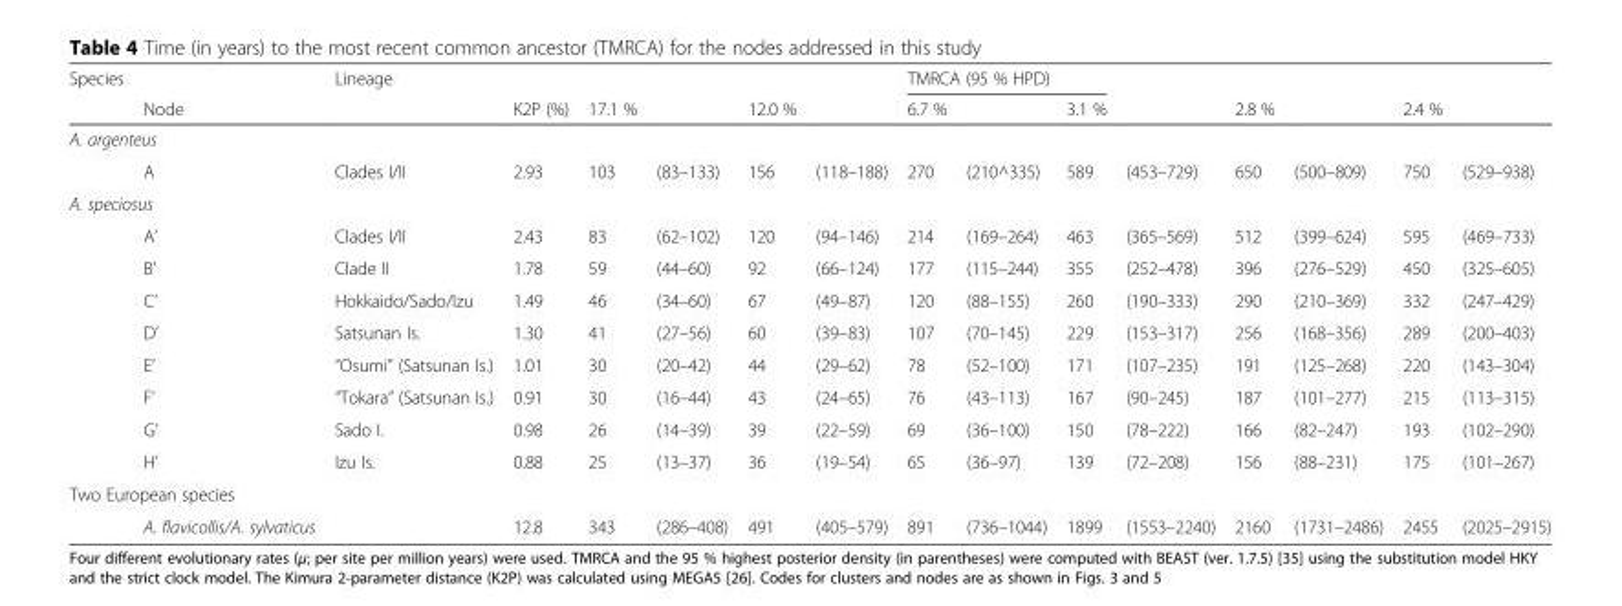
<table><thead><tr><td rowspan="2">Species</td><td rowspan="2">Node</td><td rowspan="2">Lineage</td><td rowspan="2">K2P (%)</td><td rowspan="2">17.1 %</td><td rowspan="2"></td><td rowspan="2">12.0 %</td><td rowspan="2"></td><td colspan="3">TMRCA (95 % HPD)</td><td rowspan="2"></td><td rowspan="2">2.8 %</td><td rowspan="2"></td><td rowspan="2">2.4 %</td><td rowspan="2"></td></tr><tr><td>6.7 %</td><td></td><td>3.1 %</td></tr></thead><tbody><tr><td colspan="16">A. argenteus</td></tr><tr><td></td><td>A</td><td>Clades I/II</td><td>2.93</td><td>103</td><td>(83–133)</td><td>156</td><td>(118–188)</td><td>270</td><td>(210^335)</td><td>589</td><td>(453–729)</td><td>650</td><td>(500–809)</td><td>750</td><td>(529–938)</td></tr><tr><td colspan="16">A. speciosus</td></tr><tr><td></td><td>A’</td><td>Clades I/II</td><td>2.43</td><td>83</td><td>(62–102)</td><td>120</td><td>(94–146)</td><td>214</td><td>(169–264)</td><td>463</td><td>(365–569)</td><td>512</td><td>(399–624)</td><td>595</td><td>(469–733)</td></tr><tr><td></td><td>B’</td><td>Clade II</td><td>1.78</td><td>59</td><td>(44–60)</td><td>92</td><td>(66–124)</td><td>177</td><td>(115–244)</td><td>355</td><td>(252–478)</td><td>396</td><td>(276–529)</td><td>450</td><td>(325–605)</td></tr><tr><td></td><td>C’</td><td>Hokkaido/Sado/Izu</td><td>1.49</td><td>46</td><td>(34–60)</td><td>67</td><td>(49–87)</td><td>120</td><td>(88–155)</td><td>260</td><td>(190–333)</td><td>290</td><td>(210–369)</td><td>332</td><td>(247–429)</td></tr><tr><td></td><td>D’</td><td>Satsunan Is.</td><td>1.30</td><td>41</td><td>(27–56)</td><td>60</td><td>(39–83)</td><td>107</td><td>(70–145)</td><td>229</td><td>(153–317)</td><td>256</td><td>(168–356)</td><td>289</td><td>(200–403)</td></tr><tr><td></td><td>E’</td><td>“Osumi” (Satsunan Is.)</td><td>1.01</td><td>30</td><td>(20–42)</td><td>44</td><td>(29–62)</td><td>78</td><td>(52–100)</td><td>171</td><td>(107–235)</td><td>191</td><td>(125–268)</td><td>220</td><td>(143–304)</td></tr><tr><td></td><td>F’</td><td>“Tokara” (Satsunan Is.)</td><td>0.91</td><td>30</td><td>(16–44)</td><td>43</td><td>(24–65)</td><td>76</td><td>(43–113)</td><td>167</td><td>(90–245)</td><td>187</td><td>(101–277)</td><td>215</td><td>(113–315)</td></tr><tr><td></td><td>G’</td><td>Sado I.</td><td>0.98</td><td>26</td><td>(14–39)</td><td>39</td><td>(22–59)</td><td>69</td><td>(36–100)</td><td>150</td><td>(78–222)</td><td>166</td><td>(82–247)</td><td>193</td><td>(102–290)</td></tr><tr><td></td><td>H’</td><td>Izu Is.</td><td>0.88</td><td>25</td><td>(13–37)</td><td>36</td><td>(19–54)</td><td>65</td><td>(36–97)</td><td>139</td><td>(72–208)</td><td>156</td><td>(88–231)</td><td>175</td><td>(101–267)</td></tr><tr><td colspan="16">Two European species</td></tr><tr><td></td><td>A. flavicollis/A. sylvaticus</td><td></td><td>12.8</td><td>343</td><td>(286–408)</td><td>491</td><td>(405–579)</td><td>891</td><td>(736–1044)</td><td>1899</td><td>(1553–2240)</td><td>2160</td><td>(1731–2486)</td><td>2455</td><td>(2025–2915)</td></tr></tbody></table>